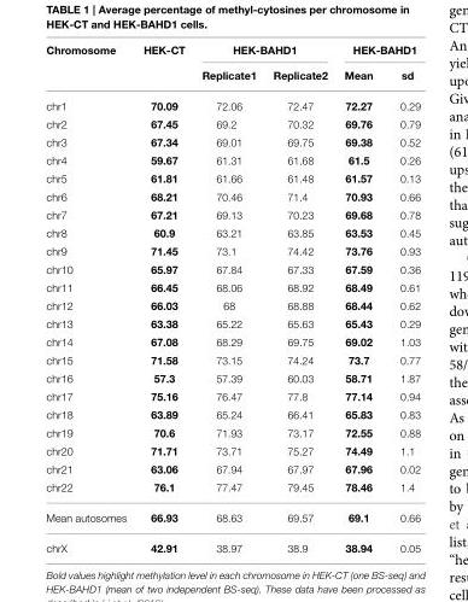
<table><thead><tr><td rowspan="2">Chromosome</td><td rowspan="2">HEK-CT</td><td colspan="2">HEK-BAHD1</td><td colspan="2">HEK-BAHD1</td></tr><tr><td>Replicate1</td><td>Replicate2</td><td>Mean</td><td>sd</td></tr></thead><tbody><tr><td>chr1</td><td>70.09</td><td>72.06</td><td>72.47</td><td>72.27</td><td>0.29</td></tr><tr><td>chr2</td><td>67.45</td><td>69.2</td><td>70.32</td><td>69.76</td><td>0.79</td></tr><tr><td>chr3</td><td>67.34</td><td>69.01</td><td>69.75</td><td>69.38</td><td>0.52</td></tr><tr><td>chr4</td><td>59.67</td><td>61.31</td><td>61.68</td><td>61.5</td><td>0.26</td></tr><tr><td>chr5</td><td>61.81</td><td>61.66</td><td>61.48</td><td>61.57</td><td>0.13</td></tr><tr><td>chr6</td><td>68.21</td><td>70.46</td><td>71.4</td><td>70.93</td><td>0.66</td></tr><tr><td>chr7</td><td>67.21</td><td>69.13</td><td>70.23</td><td>69.68</td><td>0.78</td></tr><tr><td>chr8</td><td>60.9</td><td>63.21</td><td>63.85</td><td>63.53</td><td>0.45</td></tr><tr><td>chr9</td><td>71.45</td><td>73.1</td><td>74.42</td><td>73.76</td><td>0.93</td></tr><tr><td>chr10</td><td>65.97</td><td>67.84</td><td>67.33</td><td>67.59</td><td>0.36</td></tr><tr><td>chr11</td><td>66.45</td><td>68.06</td><td>68.92</td><td>68.49</td><td>0.61</td></tr><tr><td>chr12</td><td>66.03</td><td>68</td><td>68.88</td><td>68.44</td><td>0.62</td></tr><tr><td>chr13</td><td>63.38</td><td>65.22</td><td>65.63</td><td>65.43</td><td>0.29</td></tr><tr><td>chr14</td><td>67.08</td><td>68.29</td><td>69.75</td><td>69.02</td><td>1.03</td></tr><tr><td>chr15</td><td>71.58</td><td>73.15</td><td>74.24</td><td>73.7</td><td>0.77</td></tr><tr><td>chr16</td><td>57.3</td><td>57.39</td><td>60.03</td><td>58.71</td><td>1.87</td></tr><tr><td>chr17</td><td>75.16</td><td>76.47</td><td>77.8</td><td>77.14</td><td>0.94</td></tr><tr><td>chr18</td><td>63.89</td><td>65.24</td><td>66.41</td><td>65.83</td><td>0.83</td></tr><tr><td>chr19</td><td>70.6</td><td>71.93</td><td>73.17</td><td>72.55</td><td>0.88</td></tr><tr><td>chr20</td><td>71.71</td><td>73.71</td><td>75.27</td><td>74.49</td><td>1.1</td></tr><tr><td>chr21</td><td>63.06</td><td>67.94</td><td>67.97</td><td>67.96</td><td>0.02</td></tr><tr><td>chr22</td><td>76.1</td><td>77.47</td><td>79.45</td><td>78.46</td><td>1.4</td></tr><tr><td>Mean autosomes</td><td>66.93</td><td>68.63</td><td>69.57</td><td>69.1</td><td>0.66</td></tr><tr><td>chrX</td><td>42.91</td><td>38.97</td><td>38.9</td><td>38.94</td><td>0.05</td></tr></tbody></table>